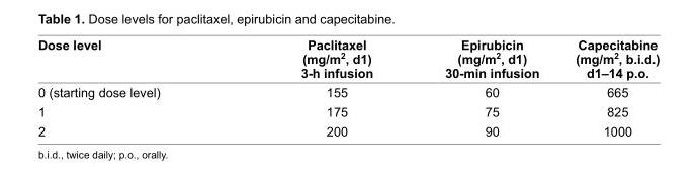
<table><thead><tr><td>Dose level</td><td>Paclitaxel (mg/m<sup>2</sup>, d1) 3-h infusion</td><td>Epirubicin (mg/m<sup>2</sup>, d1) 30-min infusion</td><td>Capecitabine (mg/m<sup>2</sup>, b.i.d.) d1–14 p.o.</td></tr></thead><tbody><tr><td>0 (starting dose level)</td><td>155</td><td>60</td><td>665</td></tr><tr><td>1</td><td>175</td><td>75</td><td>825</td></tr><tr><td>2</td><td>200</td><td>90</td><td>1000</td></tr></tbody></table>